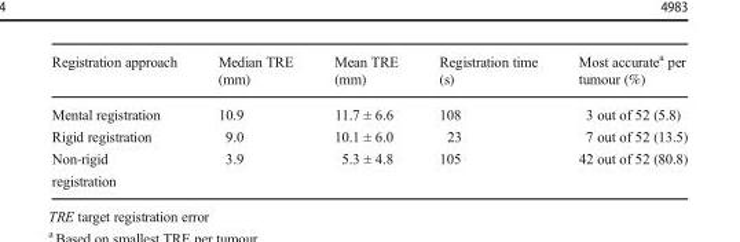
<table><thead><tr><td>Registration approach</td><td>Median TRE (mm)</td><td>Mean TRE (mm)</td><td>Registration time (s)</td><td>Most accurate<sup>a</sup> per tumour (%)</td></tr></thead><tbody><tr><td>Mental registration</td><td>10.9</td><td>11.7 ± 6.6</td><td>108</td><td>3 out of 52 (5.8)</td></tr><tr><td>Rigid registration</td><td>9.0</td><td>10.1 ± 6.0</td><td>23</td><td>7 out of 52 (13.5)</td></tr><tr><td>Non-rigid registration</td><td>3.9</td><td>5.3 ± 4.8</td><td>105</td><td>42 out of 52 (80.8)</td></tr></tbody></table>